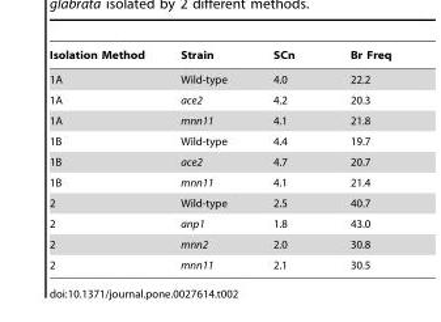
<table><thead><tr><td>Isolation Method</td><td>Strain</td><td>SCn</td><td>Br Freq</td></tr></thead><tbody><tr><td>1A</td><td>Wild-type</td><td>4.0</td><td>22.2</td></tr><tr><td>1A</td><td>ace2</td><td>4.2</td><td>20.3</td></tr><tr><td>1A</td><td>mnn11</td><td>4.1</td><td>21.8</td></tr><tr><td>1B</td><td>Wild-type</td><td>4.4</td><td>19.7</td></tr><tr><td>1B</td><td>ace2</td><td>4.7</td><td>20.7</td></tr><tr><td>1B</td><td>mnn11</td><td>4.1</td><td>21.4</td></tr><tr><td>2</td><td>Wild-type</td><td>2.5</td><td>40.7</td></tr><tr><td>2</td><td>anp1</td><td>1.8</td><td>43.0</td></tr><tr><td>2</td><td>mnn2</td><td>2.0</td><td>30.8</td></tr><tr><td>2</td><td>mnn11</td><td>2.1</td><td>30.5</td></tr></tbody></table>